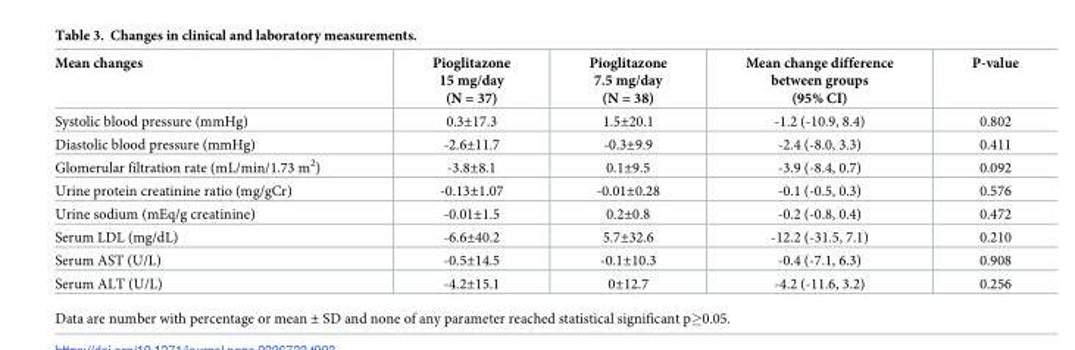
<table><thead><tr><td>Mean changes</td><td>Pioglitazone 15 mg/day (N = 37)</td><td>Pioglitazone 7.5 mg/day (N = 38)</td><td>Mean change difference between groups (95% CI)</td><td>P-value</td></tr></thead><tbody><tr><td>Systolic blood pressure (mmHg)</td><td>0.3±17.3</td><td>1.5±20.1</td><td>-1.2 (-10.9, 8.4)</td><td>0.802</td></tr><tr><td>Diastolic blood pressure (mmHg)</td><td>-2.6±11.7</td><td>-0.3±9.9</td><td>-2.4 (-8.0, 3.3)</td><td>0.411</td></tr><tr><td>Glomerular filtration rate (mL/min/1.73 m<sup>2</sup>)</td><td>-3.8±8.1</td><td>0.1±9.5</td><td>-3.9 (-8.4, 0.7)</td><td>0.092</td></tr><tr><td>Urine protein creatinine ratio (mg/gCr)</td><td>-0.13±1.07</td><td>-0.01±0.28</td><td>-0.1 (-0.5, 0.3)</td><td>0.576</td></tr><tr><td>Urine sodium (mEq/g creatinine)</td><td>-0.01±1.5</td><td>0.2±0.8</td><td>-0.2 (-0.8, 0.4)</td><td>0.472</td></tr><tr><td>Serum LDL (mg/dL)</td><td>-6.6±40.2</td><td>5.7±32.6</td><td>-12.2 (-31.5, 7.1)</td><td>0.210</td></tr><tr><td>Serum AST (U/L)</td><td>-0.5±14.5</td><td>-0.1±10.3</td><td>-0.4 (-7.1, 6.3)</td><td>0.908</td></tr><tr><td>Serum ALT (U/L)</td><td>-4.2±15.1</td><td>0±12.7</td><td>-4.2 (-11.6, 3.2)</td><td>0.256</td></tr></tbody></table>